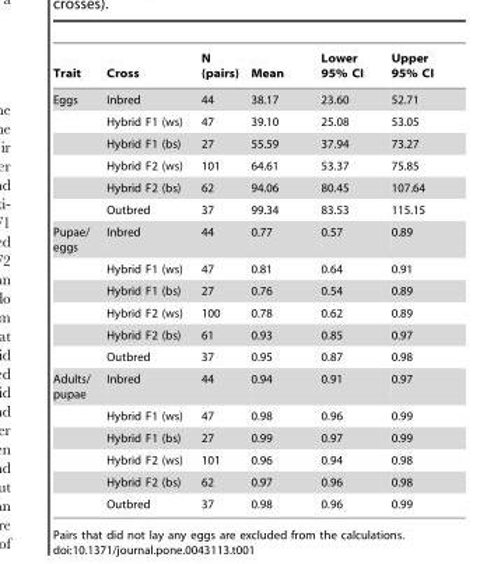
<table><thead><tr><td>Trait</td><td>Cross</td><td>N (pairs)</td><td>Mean</td><td>Lower 95% CI</td><td>Upper 95% CI</td></tr></thead><tbody><tr><td rowspan="6">Eggs</td><td>Inbred</td><td>44</td><td>38.17</td><td>23.60</td><td>52.71</td></tr><tr><td>Hybrid F1 (ws)</td><td>47</td><td>39.10</td><td>25.08</td><td>53.05</td></tr><tr><td>Hybrid F1 (bs)</td><td>27</td><td>55.59</td><td>37.94</td><td>73.27</td></tr><tr><td>Hybrid F2 (ws)</td><td>101</td><td>64.61</td><td>53.37</td><td>75.85</td></tr><tr><td>Hybrid F2 (bs)</td><td>62</td><td>94.06</td><td>80.45</td><td>107.64</td></tr><tr><td>Outbred</td><td>37</td><td>99.34</td><td>83.53</td><td>115.15</td></tr><tr><td rowspan="6">Pupae/ eggs</td><td>Inbred</td><td>44</td><td>0.77</td><td>0.57</td><td>0.89</td></tr><tr><td>Hybrid F1 (ws)</td><td>47</td><td>0.81</td><td>0.64</td><td>0.91</td></tr><tr><td>Hybrid F1 (bs)</td><td>27</td><td>0.76</td><td>0.54</td><td>0.89</td></tr><tr><td>Hybrid F2 (ws)</td><td>100</td><td>0.78</td><td>0.62</td><td>0.89</td></tr><tr><td>Hybrid F2 (bs)</td><td>61</td><td>0.93</td><td>0.85</td><td>0.97</td></tr><tr><td>Outbred</td><td>37</td><td>0.95</td><td>0.87</td><td>0.98</td></tr><tr><td rowspan="6">Adults/ pupae</td><td>Inbred</td><td>44</td><td>0.94</td><td>0.91</td><td>0.97</td></tr><tr><td>Hybrid F1 (ws)</td><td>47</td><td>0.98</td><td>0.96</td><td>0.99</td></tr><tr><td>Hybrid F1 (bs)</td><td>27</td><td>0.99</td><td>0.97</td><td>0.99</td></tr><tr><td>Hybrid F2 (ws)</td><td>101</td><td>0.96</td><td>0.94</td><td>0.98</td></tr><tr><td>Hybrid F2 (bs)</td><td>62</td><td>0.97</td><td>0.96</td><td>0.98</td></tr><tr><td>Outbred</td><td>37</td><td>0.98</td><td>0.96</td><td>0.99</td></tr></tbody></table>